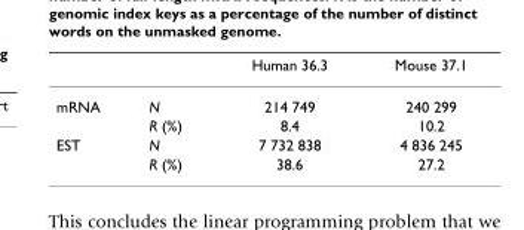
<table><thead><tr><td></td><td></td><td>Human 36.3</td><td>Mouse 37.1</td></tr></thead><tbody><tr><td rowspan="2">mRNA</td><td>N</td><td>214 749</td><td>240 299</td></tr><tr><td>R (%)</td><td>8.4</td><td>10.2</td></tr><tr><td rowspan="2">EST</td><td>N</td><td>7 732 838</td><td>4 836 245</td></tr><tr><td>R (%)</td><td>38.6</td><td>27.2</td></tr></tbody></table>